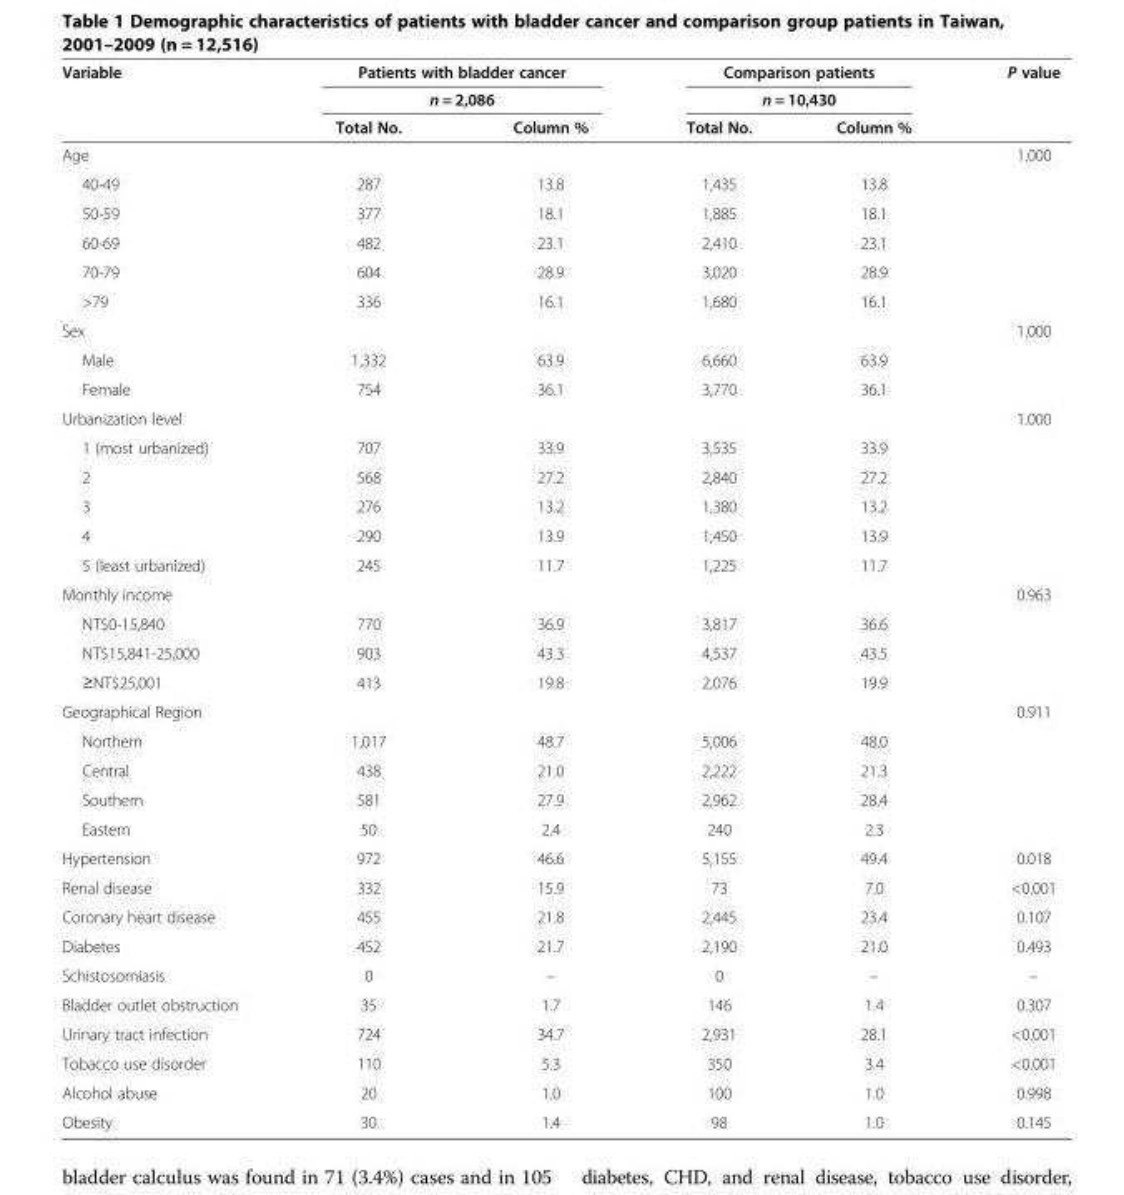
<table><thead><tr><td rowspan="3">Variable</td><td rowspan="2" colspan="2">Patients with bladder cancer n = 2,086</td><td rowspan="2" colspan="2">Comparison patients n = 10,430</td><td rowspan="3">P value</td></tr><tr></tr><tr><td>Total No.</td><td>Column %</td><td>Total No.</td><td>Column %</td></tr></thead><tbody><tr><td>Age</td><td></td><td></td><td></td><td></td><td>1.000</td></tr><tr><td>40-49</td><td>287</td><td>13.8</td><td>1,435</td><td>13.8</td><td></td></tr><tr><td>50-59</td><td>377</td><td>18.1</td><td>1,885</td><td>18.1</td><td></td></tr><tr><td>60-69</td><td>482</td><td>23.1</td><td>2,410</td><td>23.1</td><td></td></tr><tr><td>70-79</td><td>604</td><td>28.9</td><td>3,020</td><td>28.9</td><td></td></tr><tr><td>&gt;79</td><td>336</td><td>16.1</td><td>1,680</td><td>16.1</td><td></td></tr><tr><td>Sex</td><td></td><td></td><td></td><td></td><td>1.000</td></tr><tr><td>Male</td><td>1,332</td><td>63.9</td><td>6,660</td><td>63.9</td><td></td></tr><tr><td>Female</td><td>754</td><td>36.1</td><td>3,770</td><td>36.1</td><td></td></tr><tr><td>Urbanization level</td><td></td><td></td><td></td><td></td><td>1.000</td></tr><tr><td>1 (most urbanized)</td><td>707</td><td>33.9</td><td>3,535</td><td>33.9</td><td></td></tr><tr><td>2</td><td>568</td><td>27.2</td><td>2,840</td><td>27.2</td><td></td></tr><tr><td>3</td><td>276</td><td>13.2</td><td>1,380</td><td>13.2</td><td></td></tr><tr><td>4</td><td>290</td><td>13.9</td><td>1,450</td><td>13.9</td><td></td></tr><tr><td>5 (least urbanized)</td><td>245</td><td>11.7</td><td>1,225</td><td>11.7</td><td></td></tr><tr><td>Monthly income</td><td></td><td></td><td></td><td></td><td>0.963</td></tr><tr><td>NT$0-15,840</td><td>770</td><td>36.9</td><td>3,817</td><td>36.6</td><td></td></tr><tr><td>NT$15,841-25,000</td><td>903</td><td>43.3</td><td>4,537</td><td>43.5</td><td></td></tr><tr><td>≥NT$25,001</td><td>413</td><td>19.8</td><td>2,076</td><td>19.9</td><td></td></tr><tr><td>Geographical Region</td><td></td><td></td><td></td><td></td><td>0.911</td></tr><tr><td>Northern</td><td>1,017</td><td>48.7</td><td>5,006</td><td>48.0</td><td></td></tr><tr><td>Central</td><td>438</td><td>21.0</td><td>2,222</td><td>21.3</td><td></td></tr><tr><td>Southern</td><td>581</td><td>27.9</td><td>2,962</td><td>28.4</td><td></td></tr><tr><td>Eastern</td><td>50</td><td>2.4</td><td>240</td><td>2.3</td><td></td></tr><tr><td>Hypertension</td><td>972</td><td>46.6</td><td>5,155</td><td>49.4</td><td>0.018</td></tr><tr><td>Renal disease</td><td>332</td><td>15.9</td><td>73</td><td>7.0</td><td>&lt;0.001</td></tr><tr><td>Coronary heart disease</td><td>455</td><td>21.8</td><td>2,445</td><td>23.4</td><td>0.107</td></tr><tr><td>Diabetes</td><td>452</td><td>21.7</td><td>2,190</td><td>21.0</td><td>0.493</td></tr><tr><td>Schistosomiasis</td><td>0</td><td>–</td><td>0</td><td>–</td><td>–</td></tr><tr><td>Bladder outlet obstruction</td><td>35</td><td>1.7</td><td>146</td><td>1.4</td><td>0.307</td></tr><tr><td>Urinary tract infection</td><td>724</td><td>34.7</td><td>2,931</td><td>28.1</td><td>&lt;0.001</td></tr><tr><td>Tobacco use disorder</td><td>110</td><td>5.3</td><td>350</td><td>3.4</td><td>&lt;0.001</td></tr><tr><td>Alcohol abuse</td><td>20</td><td>1.0</td><td>100</td><td>1.0</td><td>0.998</td></tr><tr><td>Obesity</td><td>30</td><td>1.4</td><td>98</td><td>1.0</td><td>0.145</td></tr></tbody></table>